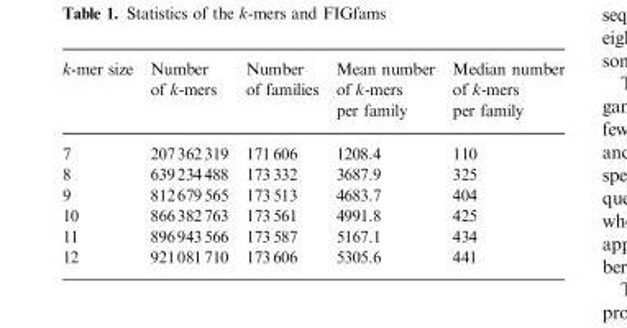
<table><thead><tr><td>k-mer size</td><td>Number of k-mers</td><td>Number of families</td><td>Mean number of k-mers per family</td><td>Median number of k-mers per family</td></tr></thead><tbody><tr><td>7</td><td>207362 319</td><td>171 606</td><td>1208.4</td><td>110</td></tr><tr><td>8</td><td>639234 488</td><td>173 332</td><td>3687.9</td><td>325</td></tr><tr><td>9</td><td>812679 565</td><td>173 513</td><td>4683.7</td><td>404</td></tr><tr><td>10</td><td>866382 763</td><td>173 561</td><td>4991.8</td><td>425</td></tr><tr><td>11</td><td>896943 566</td><td>173 587</td><td>5167.1</td><td>434</td></tr><tr><td>12</td><td>921081 710</td><td>173 606</td><td>5305.6</td><td>441</td></tr></tbody></table>